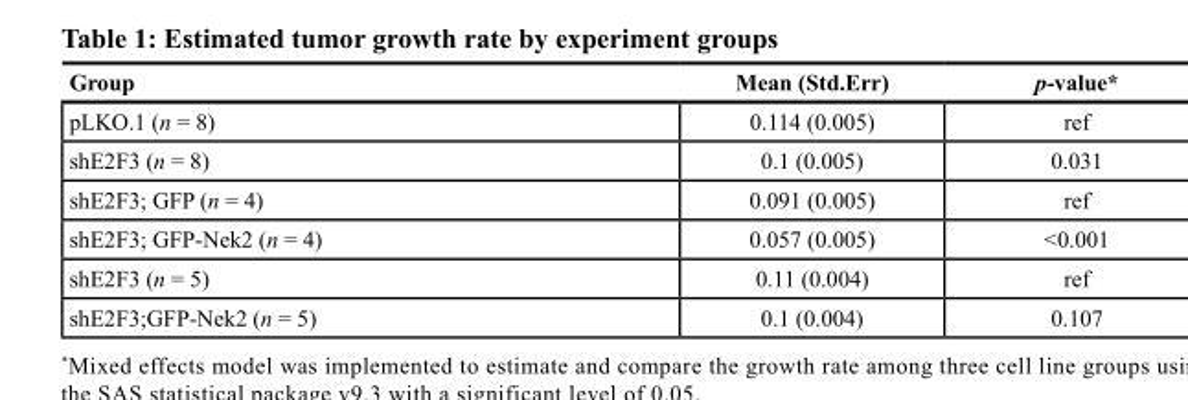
<table><thead><tr><td>Group</td><td>Mean (Std.Err)</td><td>p-value*</td></tr></thead><tbody><tr><td>pLKO.1 (n = 8)</td><td>0.114 (0.005)</td><td>ref</td></tr><tr><td>shE2F3 (n = 8)</td><td>0.1 (0.005)</td><td>0.031</td></tr><tr><td>shE2F3; GFP (n = 4)</td><td>0.091 (0.005)</td><td>ref</td></tr><tr><td>shE2F3; GFP-Nek2 (n = 4)</td><td>0.057 (0.005)</td><td>&lt;0.001</td></tr><tr><td>shE2F3 (n = 5)</td><td>0.11 (0.004)</td><td>ref</td></tr><tr><td>shE2F3;GFP-Nek2 (n = 5)</td><td>0.1 (0.004)</td><td>0.107</td></tr></tbody></table>